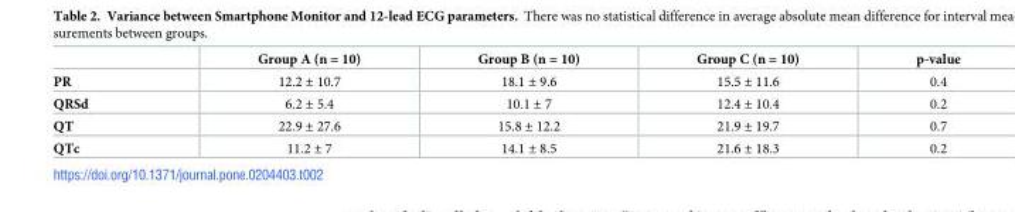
<table><thead><tr><td></td><td>Group A (n = 10)</td><td>Group B (n = 10)</td><td>Group C (n = 10)</td><td>p-value</td></tr></thead><tbody><tr><td>PR</td><td>12.2 ± 10.7</td><td>18.1 ± 9.6</td><td>15.5 ± 11.6</td><td>0.4</td></tr><tr><td>QRSd</td><td>6.2 ± 5.4</td><td>10.1 ± 7</td><td>12.4 ± 10.4</td><td>0.2</td></tr><tr><td>QT</td><td>22.9 ± 27.6</td><td>15.8 ± 12.2</td><td>21.9 ± 19.7</td><td>0.7</td></tr><tr><td>QTc</td><td>11.2 ± 7</td><td>14.1 ± 8.5</td><td>21.6 ± 18.3</td><td>0.2</td></tr></tbody></table>